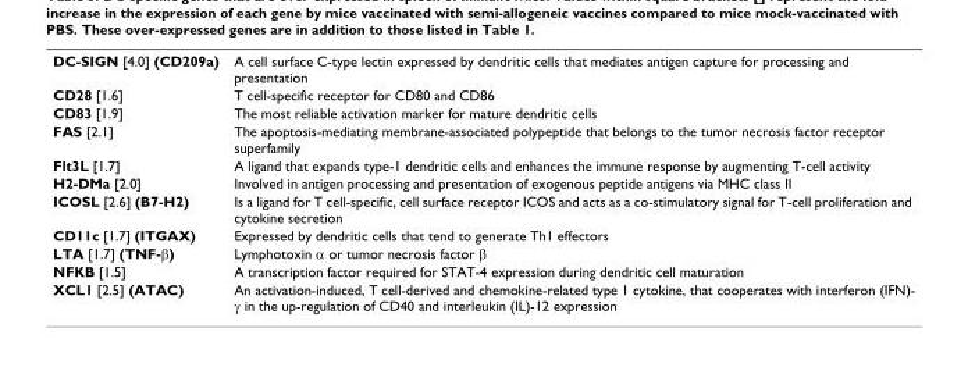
<table><tbody><tr><td>DC-SIGN [4.0] (CD209a)</td><td>A cell surface C-type lectin expressed by dendritic cells that mediates antigen capture for processing and presentation</td></tr><tr><td>CD28 [1.6]</td><td>T cell-specific receptor for CD80 and CD86</td></tr><tr><td>CD83 [1.9]</td><td>The most reliable activation marker for mature dendritic cells</td></tr><tr><td>FAS [2.1]</td><td>The apoptosis-mediating membrane-associated polypeptide that belongs to the tumor necrosis factor receptor superfamily</td></tr><tr><td>Flt3L [1.7]</td><td>A ligand that expands type-1 dendritic cells and enhances the immune response by augmenting T-cell activity</td></tr><tr><td>H2-DMa [2.0]</td><td>Involved in antigen processing and presentation of exogenous peptide antigens via MHC class II</td></tr><tr><td>ICOSL [2.6] (B7-H2)</td><td>Is a ligand for T cell-specific, cell surface receptor ICOS and acts as a co-stimulatory signal for T-cell proliferation and cytokine secretion</td></tr><tr><td>CD11c [1.7] (ITGAX)</td><td>Expressed by dendritic cells that tend to generate Th1 effectors</td></tr><tr><td>LTA [1.7] (TNF-β)</td><td>Lymphotoxin α or tumor necrosis factor β</td></tr><tr><td>NFKB [1.5]</td><td>A transcription factor required for STAT-4 expression during dendritic cell maturation</td></tr><tr><td>XCL1 [2.5] (ATAC)</td><td>An activation-induced, T cell-derived and chemokine-related type 1 cytokine, that cooperates with interferon (IFN)- γ in the up-regulation of CD40 and interleukin (IL)-12 expression</td></tr></tbody></table>